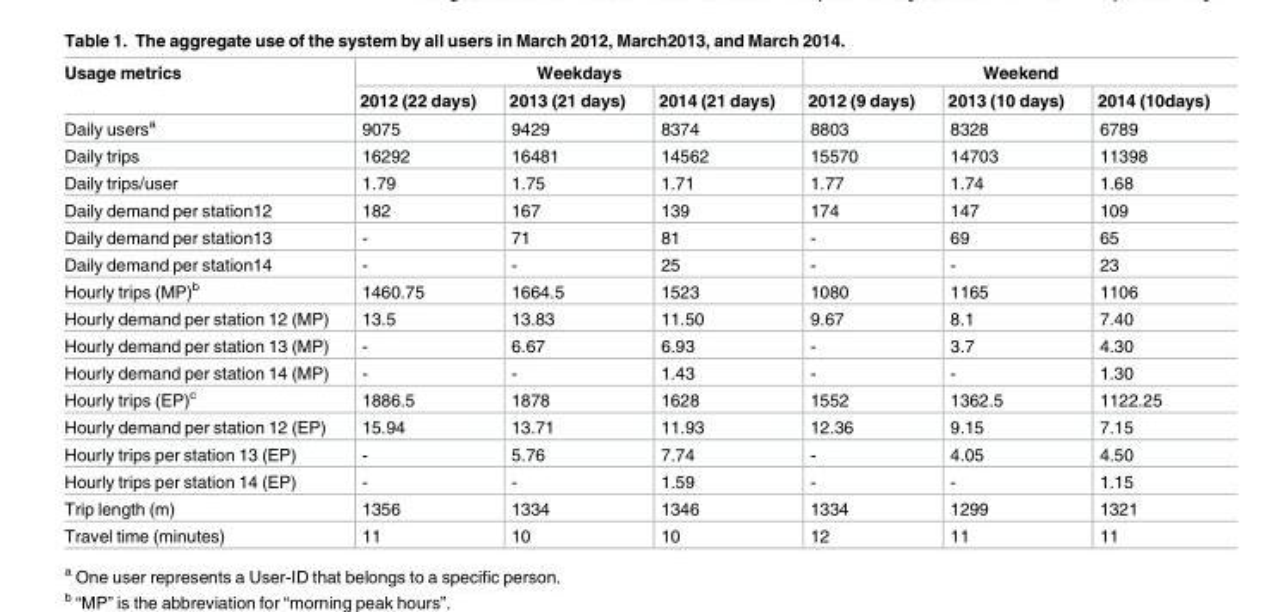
<table><thead><tr><td rowspan="2">Usage metrics</td><td colspan="3">Weekdays</td><td colspan="3">Weekend</td></tr><tr><td>2012 (22 days)</td><td>2013 (21 days)</td><td>2014 (21 days)</td><td>2012 (9 days)</td><td>2013 (10 days)</td><td>2014 (10days)</td></tr></thead><tbody><tr><td>Daily users<sup>a</sup></td><td>9075</td><td>9429</td><td>8374</td><td>8803</td><td>8328</td><td>6789</td></tr><tr><td>Daily trips</td><td>16292</td><td>16481</td><td>14562</td><td>15570</td><td>14703</td><td>11398</td></tr><tr><td>Daily trips/user</td><td>1.79</td><td>1.75</td><td>1.71</td><td>1.77</td><td>1.74</td><td>1.68</td></tr><tr><td>Daily demand per station12</td><td>182</td><td>167</td><td>139</td><td>174</td><td>147</td><td>109</td></tr><tr><td>Daily demand per station13</td><td>-</td><td>71</td><td>81</td><td>-</td><td>69</td><td>65</td></tr><tr><td>Daily demand per station14</td><td>-</td><td>-</td><td>25</td><td>-</td><td>-</td><td>23</td></tr><tr><td>Hourly trips (MP)<sup>b</sup></td><td>1460.75</td><td>1664.5</td><td>1523</td><td>1080</td><td>1165</td><td>1106</td></tr><tr><td>Hourly demand per station 12 (MP)</td><td>13.5</td><td>13.83</td><td>11.50</td><td>9.67</td><td>8.1</td><td>7.40</td></tr><tr><td>Hourly demand per station 13 (MP)</td><td>-</td><td>6.67</td><td>6.93</td><td>-</td><td>3.7</td><td>4.30</td></tr><tr><td>Hourly demand per station 14 (MP)</td><td>-</td><td>-</td><td>1.43</td><td>-</td><td>-</td><td>1.30</td></tr><tr><td>Hourly trips (EP)<sup>c</sup></td><td>1886.5</td><td>1878</td><td>1628</td><td>1552</td><td>1362.5</td><td>1122.25</td></tr><tr><td>Hourly demand per station 12 (EP)</td><td>15.94</td><td>13.71</td><td>11.93</td><td>12.36</td><td>9.15</td><td>7.15</td></tr><tr><td>Hourly trips per station 13 (EP)</td><td>-</td><td>5.76</td><td>7.74</td><td>-</td><td>4.05</td><td>4.50</td></tr><tr><td>Hourly trips per station 14 (EP)</td><td>-</td><td>-</td><td>1.59</td><td>-</td><td>-</td><td>1.15</td></tr><tr><td>Trip length (m)</td><td>1356</td><td>1334</td><td>1346</td><td>1334</td><td>1299</td><td>1321</td></tr><tr><td>Travel time (minutes)</td><td>11</td><td>10</td><td>10</td><td>12</td><td>11</td><td>11</td></tr></tbody></table>